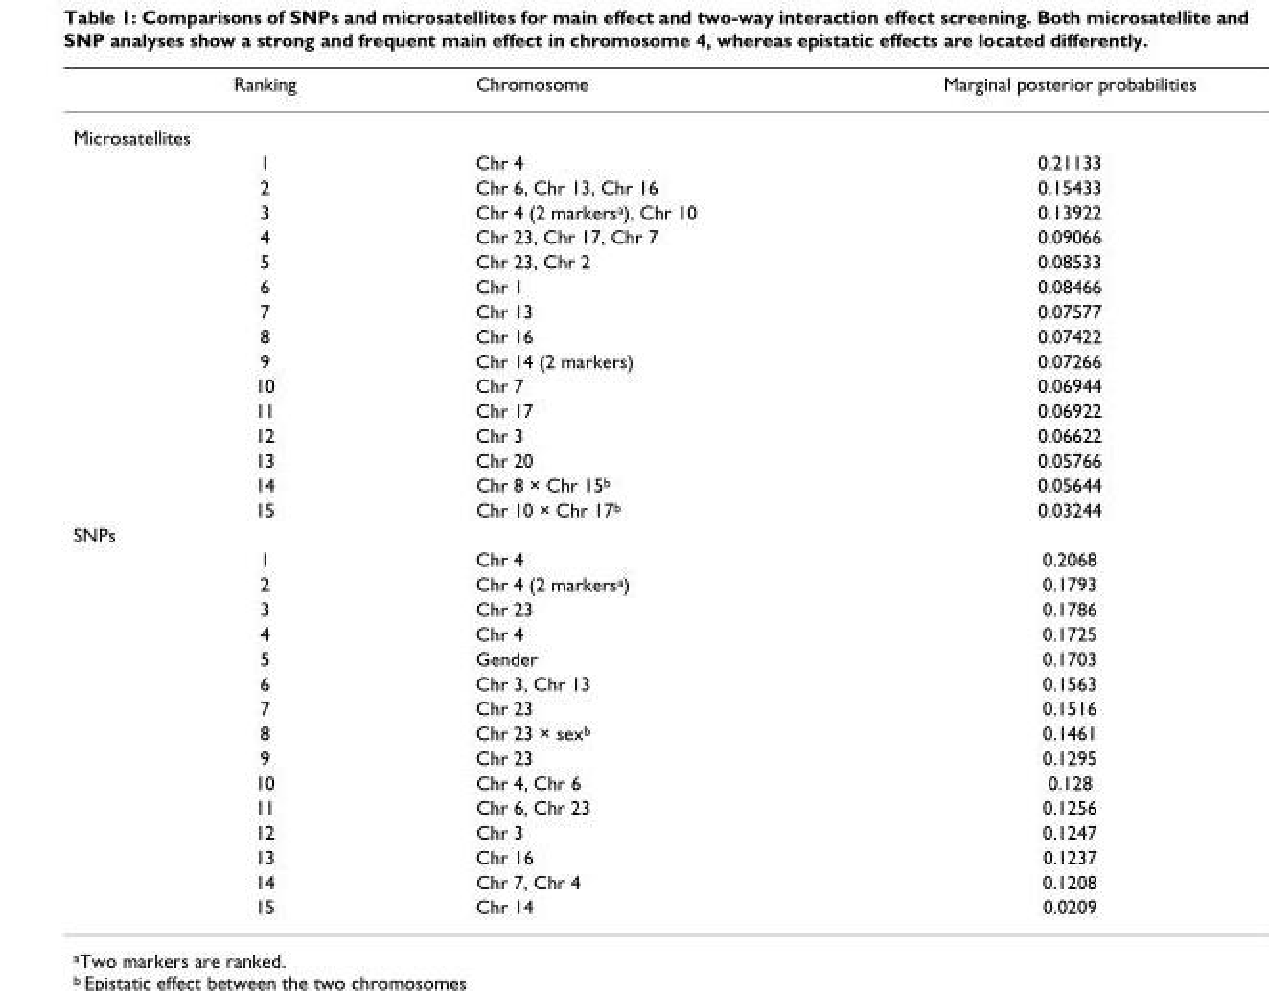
<table><thead><tr><td>Ranking</td><td>Chromosome</td><td>Marginal posterior probabilities</td></tr></thead><tbody><tr><td colspan="3">Microsatellites</td></tr><tr><td>1</td><td>Chr 4</td><td>0.21133</td></tr><tr><td>2</td><td>Chr 6, Chr 13, Chr 16</td><td>0.15433</td></tr><tr><td>3</td><td>Chr 4 (2 markersa), Chr 10</td><td>0.13922</td></tr><tr><td>4</td><td>Chr 23, Chr 17, Chr 7</td><td>0.09066</td></tr><tr><td>5</td><td>Chr 23, Chr 2</td><td>0.08533</td></tr><tr><td>6</td><td>Chr 1</td><td>0.08466</td></tr><tr><td>7</td><td>Chr 13</td><td>0.07577</td></tr><tr><td>8</td><td>Chr 16</td><td>0.07422</td></tr><tr><td>9</td><td>Chr 14 (2 markers)</td><td>0.07266</td></tr><tr><td>10</td><td>Chr 7</td><td>0.06944</td></tr><tr><td>11</td><td>Chr 17</td><td>0.06922</td></tr><tr><td>12</td><td>Chr 3</td><td>0.06622</td></tr><tr><td>13</td><td>Chr 20</td><td>0.05766</td></tr><tr><td>14</td><td>Chr 8 × Chr 15b</td><td>0.05644</td></tr><tr><td>15</td><td>Chr 10 × Chr 17b</td><td>0.03244</td></tr><tr><td colspan="3">SNPs</td></tr><tr><td>1</td><td>Chr 4</td><td>0.2068</td></tr><tr><td>2</td><td>Chr 4 (2 markersa)</td><td>0.1793</td></tr><tr><td>3</td><td>Chr 23</td><td>0.1786</td></tr><tr><td>4</td><td>Chr 4</td><td>0.1725</td></tr><tr><td>5</td><td>Gender</td><td>0.1703</td></tr><tr><td>6</td><td>Chr 3, Chr 13</td><td>0.1563</td></tr><tr><td>7</td><td>Chr 23</td><td>0.1516</td></tr><tr><td>8</td><td>Chr 23 × sexb</td><td>0.1461</td></tr><tr><td>9</td><td>Chr 23</td><td>0.1295</td></tr><tr><td>10</td><td>Chr 4, Chr 6</td><td>0.128</td></tr><tr><td>11</td><td>Chr 6, Chr 23</td><td>0.1256</td></tr><tr><td>12</td><td>Chr 3</td><td>0.1247</td></tr><tr><td>13</td><td>Chr 16</td><td>0.1237</td></tr><tr><td>14</td><td>Chr 7, Chr 4</td><td>0.1208</td></tr><tr><td>15</td><td>Chr 14</td><td>0.0209</td></tr></tbody></table>